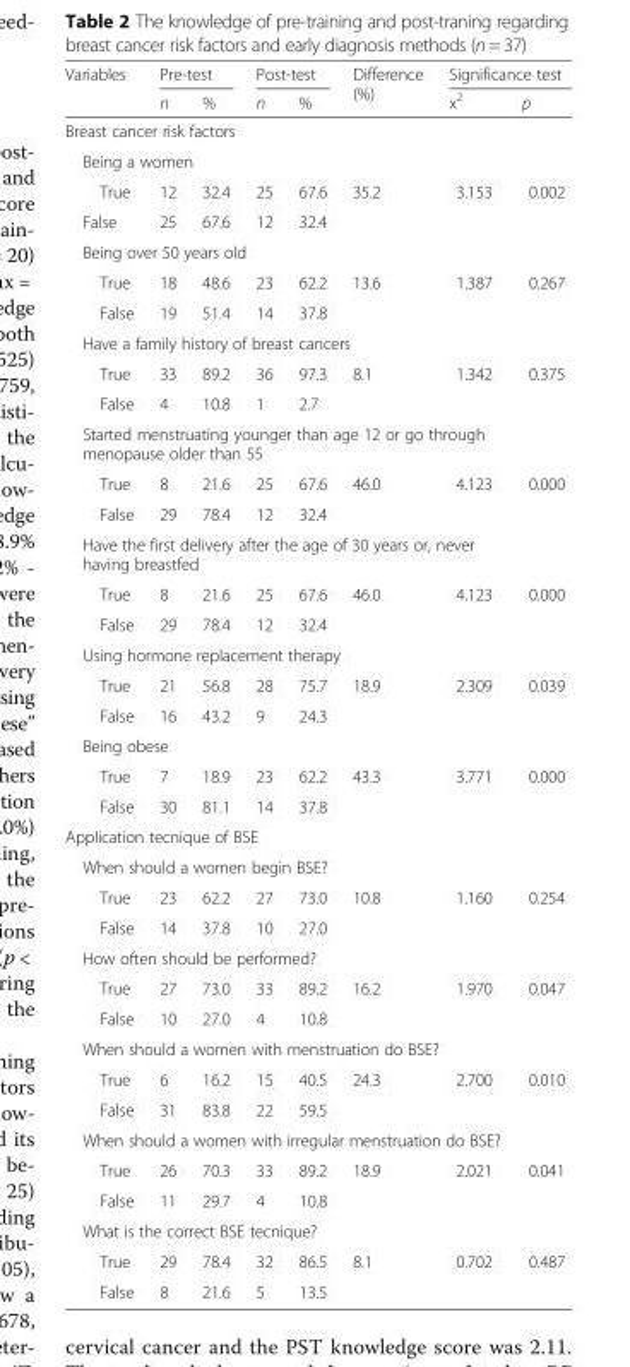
<table><thead><tr><td rowspan="2">Variables</td><td colspan="2">Pre-test</td><td colspan="2">Post-test</td><td rowspan="2">Difference (%)</td><td colspan="2">Significance test</td></tr><tr><td>n</td><td>%</td><td>n</td><td>%</td><td>x<sup>2</sup></td><td>p</td></tr></thead><tbody><tr><td colspan="8">Breast cancer risk factors</td></tr><tr><td colspan="8">Being a women</td></tr><tr><td>True</td><td>12</td><td>32.4</td><td>25</td><td>67.6</td><td rowspan="2">35.2</td><td rowspan="2">3.153</td><td rowspan="2">0.002</td></tr><tr><td>False</td><td>25</td><td>67.6</td><td>12</td><td>32.4</td></tr><tr><td colspan="8">Being over 50 years old</td></tr><tr><td>True</td><td>18</td><td>48.6</td><td>23</td><td>62.2</td><td rowspan="2">13.6</td><td rowspan="2">1.387</td><td rowspan="2">0.267</td></tr><tr><td>False</td><td>19</td><td>51.4</td><td>14</td><td>37.8</td></tr><tr><td colspan="8">Have a family history of breast cancers</td></tr><tr><td>True</td><td>33</td><td>89.2</td><td>36</td><td>97.3</td><td rowspan="2">8.1</td><td rowspan="2">1.342</td><td rowspan="2">0.375</td></tr><tr><td>False</td><td>4</td><td>10.8</td><td>1</td><td>2.7</td></tr><tr><td colspan="8">Started menstruating younger than age 12 or go through menopause older than 55</td></tr><tr><td>True</td><td>8</td><td>21.6</td><td>25</td><td>67.6</td><td rowspan="2">46.0</td><td rowspan="2">4.123</td><td rowspan="2">0.000</td></tr><tr><td>False</td><td>29</td><td>78.4</td><td>12</td><td>32.4</td></tr><tr><td colspan="8">Have the first delivery after the age of 30 years or, never having breastfed</td></tr><tr><td>True</td><td>8</td><td>21.6</td><td>25</td><td>67.6</td><td rowspan="2">46.0</td><td rowspan="2">4.123</td><td rowspan="2">0.000</td></tr><tr><td>False</td><td>29</td><td>78.4</td><td>12</td><td>32.4</td></tr><tr><td colspan="8">Using hormone replacement therapy</td></tr><tr><td>True</td><td>21</td><td>56.8</td><td>28</td><td>75.7</td><td rowspan="2">18.9</td><td rowspan="2">2.309</td><td rowspan="2">0.039</td></tr><tr><td>False</td><td>16</td><td>43.2</td><td>9</td><td>24.3</td></tr><tr><td colspan="8">Being obese</td></tr><tr><td>True</td><td>7</td><td>18.9</td><td>23</td><td>62.2</td><td rowspan="2">43.3</td><td rowspan="2">3.771</td><td rowspan="2">0.000</td></tr><tr><td>False</td><td>30</td><td>81.1</td><td>14</td><td>37.8</td></tr><tr><td colspan="8">Application tecnique of BSE</td></tr><tr><td colspan="8">When should a women begin BSE?</td></tr><tr><td>True</td><td>23</td><td>62.2</td><td>27</td><td>73.0</td><td>10.8</td><td>1.160</td><td>0.254</td></tr><tr><td>False</td><td>14</td><td>37.8</td><td>10</td><td>27.0</td><td></td><td></td><td></td></tr><tr><td colspan="8">How often should be performed?</td></tr><tr><td>True</td><td>27</td><td>73.0</td><td>33</td><td>89.2</td><td>16.2</td><td>1.970</td><td>0.047</td></tr><tr><td>False</td><td>10</td><td>27.0</td><td>4</td><td>10.8</td><td></td><td></td><td></td></tr><tr><td colspan="8">When should a women with menstruation do BSE?</td></tr><tr><td>True</td><td>6</td><td>16.2</td><td>15</td><td>40.5</td><td>24.3</td><td>2.700</td><td>0.010</td></tr><tr><td>False</td><td>31</td><td>83.8</td><td>22</td><td>59.5</td><td></td><td></td><td></td></tr><tr><td colspan="8">When should a women with irregular menstruation do BSE?</td></tr><tr><td>True</td><td>26</td><td>70.3</td><td>33</td><td>89.2</td><td>18.9</td><td>2.021</td><td>0.041</td></tr><tr><td>False</td><td>11</td><td>29.7</td><td>4</td><td>10.8</td><td></td><td></td><td></td></tr><tr><td colspan="8">What is the correct BSE tecnique?</td></tr><tr><td>True</td><td>29</td><td>78.4</td><td>32</td><td>86.5</td><td>8.1</td><td>0.702</td><td>0.487</td></tr><tr><td>False</td><td>8</td><td>21.6</td><td>5</td><td>13.5</td><td></td><td></td><td></td></tr></tbody></table>